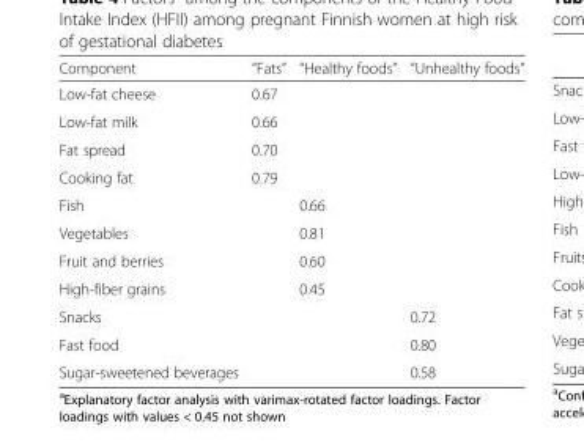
<table><thead><tr><td>Component</td><td>“Fats”</td><td>“Healthy foods”</td><td>“Unhealthy foods”</td></tr></thead><tbody><tr><td>Low-fat cheese</td><td>0.67</td><td></td><td></td></tr><tr><td>Low-fat milk</td><td>0.66</td><td></td><td></td></tr><tr><td>Fat spread</td><td>0.70</td><td></td><td></td></tr><tr><td>Cooking fat</td><td>0.79</td><td></td><td></td></tr><tr><td>Fish</td><td></td><td>0.66</td><td></td></tr><tr><td>Vegetables</td><td></td><td>0.81</td><td></td></tr><tr><td>Fruit and berries</td><td></td><td>0.60</td><td></td></tr><tr><td>High-fiber grains</td><td></td><td>0.45</td><td></td></tr><tr><td>Snacks</td><td></td><td></td><td>0.72</td></tr><tr><td>Fast food</td><td></td><td></td><td>0.80</td></tr><tr><td>Sugar-sweetened beverages</td><td></td><td></td><td>0.58</td></tr></tbody></table>